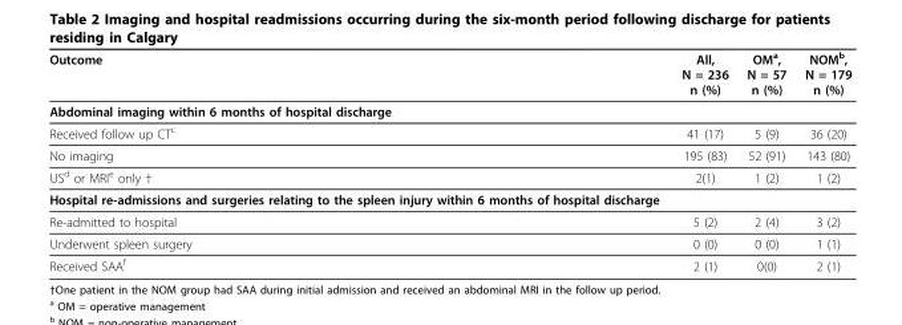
<table><thead><tr><td>Outcome</td><td>All, N = 236 n (%)</td><td>OM<sup>a</sup>, N = 57 n (%)</td><td>NOM<sup>b</sup>, N = 179 n (%)</td></tr></thead><tbody><tr><td colspan="4">Abdominal imaging within 6 months of hospital discharge</td></tr><tr><td>Received follow up CT<sup>c</sup></td><td>41 (17)</td><td>5 (9)</td><td>36 (20)</td></tr><tr><td>No imaging</td><td>195 (83)</td><td>52 (91)</td><td>143 (80)</td></tr><tr><td>US<sup>d</sup> or MRI<sup>e</sup> only †</td><td>2(1)</td><td>1 (2)</td><td>1 (2)</td></tr><tr><td colspan="4">Hospital re-admissions and surgeries relating to the spleen injury within 6 months of hospital discharge</td></tr><tr><td>Re-admitted to hospital</td><td>5 (2)</td><td>2 (4)</td><td>3 (2)</td></tr><tr><td>Underwent spleen surgery</td><td>0 (0)</td><td>0 (0)</td><td>1 (1)</td></tr><tr><td>Received SAA<sup>f</sup></td><td>2 (1)</td><td>0(0)</td><td>2 (1)</td></tr></tbody></table>